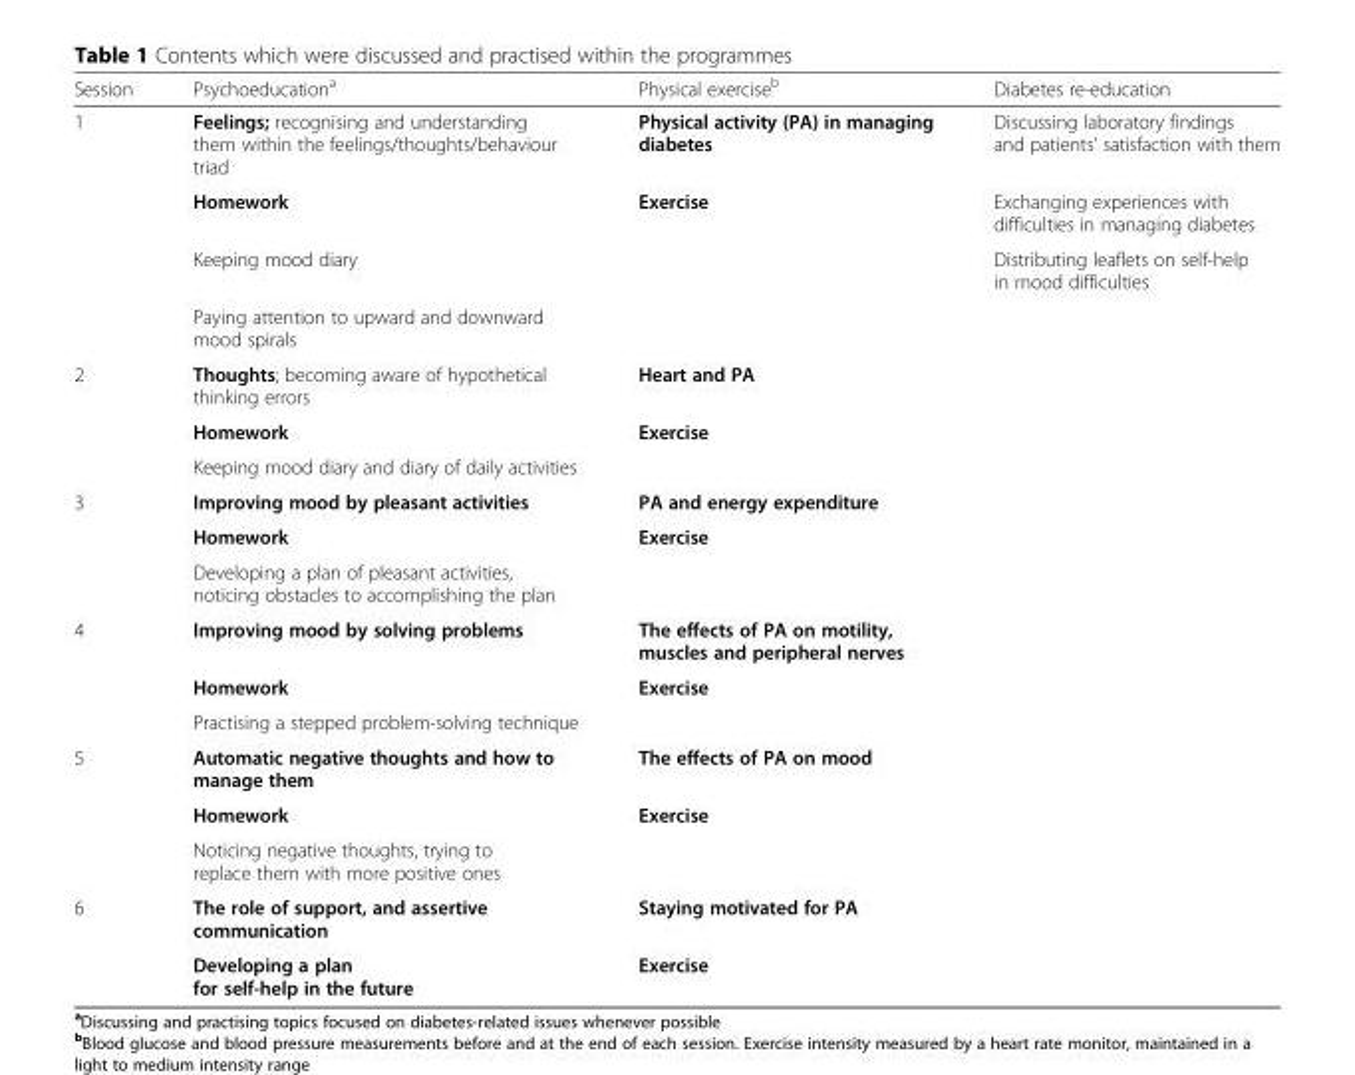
<table><thead><tr><td>Session</td><td>Psychoeducation<sup>a</sup></td><td>Physical exercise<sup>b</sup></td><td>Diabetes re-education</td></tr></thead><tbody><tr><td rowspan="4">1</td><td>Feelings; recognising and understanding them within the feelings/thoughts/behaviour triad</td><td>Physical activity (PA) in managing diabetes</td><td>Discussing laboratory findings and patients’ satisfaction with them</td></tr><tr><td>Homework</td><td>Exercise</td><td>Exchanging experiences with difficulties in managing diabetes</td></tr><tr><td>Keeping mood diary</td><td></td><td>Distributing leaflets on self-help in mood difficulties</td></tr><tr><td>Paying attention to upward and downward mood spirals</td><td></td><td></td></tr><tr><td rowspan="3">2</td><td>Thoughts; becoming aware of hypothetical thinking errors</td><td>Heart and PA</td><td rowspan="3"></td></tr><tr><td>Homework</td><td>Exercise</td></tr><tr><td>Keeping mood diary and diary of daily activities</td><td></td></tr><tr><td rowspan="3">3</td><td>Improving mood by pleasant activities</td><td>PA and energy expenditure</td><td rowspan="3"></td></tr><tr><td>Homework</td><td>Exercise</td></tr><tr><td>Developing a plan of pleasant activities, noticing obstacles to accomplishing the plan</td><td></td></tr><tr><td rowspan="3">4</td><td>Improving mood by solving problems</td><td>The effects of PA on motility, muscles and peripheral nerves</td><td rowspan="3"></td></tr><tr><td>Homework</td><td>Exercise</td></tr><tr><td>Practising a stepped problem-solving technique</td><td></td></tr><tr><td rowspan="3">5</td><td>Automatic negative thoughts and how to manage them</td><td>The effects of PA on mood</td><td rowspan="3"></td></tr><tr><td>Homework</td><td>Exercise</td></tr><tr><td>Noticing negative thoughts, trying to replace them with more positive ones</td><td></td></tr><tr><td rowspan="2">6</td><td>The role of support, and assertive communication</td><td>Staying motivated for PA</td><td rowspan="2"></td></tr><tr><td>Developing a plan for self-help in the future</td><td>Exercise</td></tr></tbody></table>